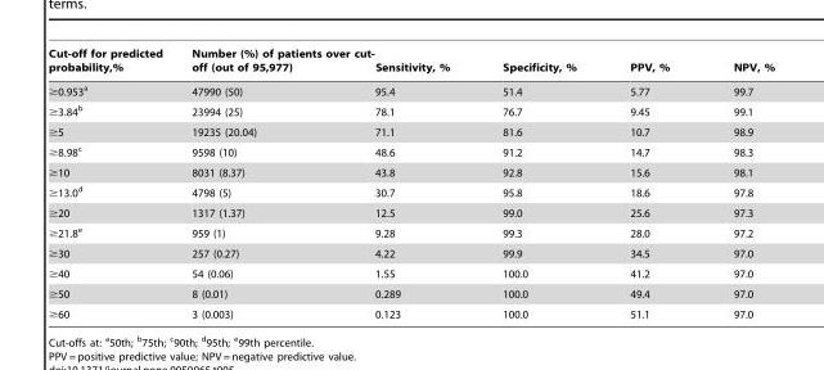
<table><thead><tr><td>Cut-off for predicted probability,%</td><td>Number (%) of patients over cut- off (out of 95,977)</td><td>Sensitivity, %</td><td>Specificity, %</td><td>PPV, %</td><td>NPV, %</td></tr></thead><tbody><tr><td>≥0.953<sup>a</sup></td><td>47990 (50)</td><td>95.4</td><td>51.4</td><td>5.77</td><td>99.7</td></tr><tr><td>≥3.84<sup>b</sup></td><td>23994 (25)</td><td>78.1</td><td>76.7</td><td>9.45</td><td>99.1</td></tr><tr><td>≥5</td><td>19235 (20.04)</td><td>71.1</td><td>81.6</td><td>10.7</td><td>98.9</td></tr><tr><td>≥8.98<sup>c</sup></td><td>9598 (10)</td><td>48.6</td><td>91.2</td><td>14.7</td><td>98.3</td></tr><tr><td>≥10</td><td>8031 (8.37)</td><td>43.8</td><td>92.8</td><td>15.6</td><td>98.1</td></tr><tr><td>≥13.0<sup>d</sup></td><td>4798 (5)</td><td>30.7</td><td>95.8</td><td>18.6</td><td>97.8</td></tr><tr><td>≥20</td><td>1317 (1.37)</td><td>12.5</td><td>99.0</td><td>25.6</td><td>97.3</td></tr><tr><td>≥21.8<sup>e</sup></td><td>959 (1)</td><td>9.28</td><td>99.3</td><td>28.0</td><td>97.2</td></tr><tr><td>≥30</td><td>257 (0.27)</td><td>4.22</td><td>99.9</td><td>34.5</td><td>97.0</td></tr><tr><td>≥40</td><td>54 (0.06)</td><td>1.55</td><td>100.0</td><td>41.2</td><td>97.0</td></tr><tr><td>≥50</td><td>8 (0.01)</td><td>0.289</td><td>100.0</td><td>49.4</td><td>97.0</td></tr><tr><td>≥60</td><td>3 (0.003)</td><td>0.123</td><td>100.0</td><td>51.1</td><td>97.0</td></tr></tbody></table>